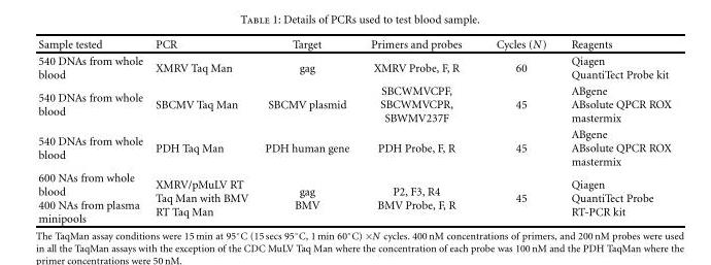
<table><thead><tr><td>Sample tested</td><td>PCR</td><td>Target</td><td>Primers and probes</td><td>Cycles (N)</td><td>Reagents</td></tr></thead><tbody><tr><td>540 DNAs from whole blood</td><td>XMRV Taq Man</td><td>gag</td><td>XMRV Probe, F, R</td><td>60</td><td>Qiagen QuantiTect Probe kit</td></tr><tr><td>540 DNAs from whole blood</td><td>SBCMV Taq Man</td><td>SBCMV plasmid</td><td>SBCWMVCPF, SBCWMVCPR, SBWMV237F</td><td>45</td><td>ABgene ABsolute QPCR ROX mastermix</td></tr><tr><td>540 DNAs from whole blood</td><td>PDH Taq Man</td><td>PDH human gene</td><td>PDH Probe, F, R</td><td>45</td><td>ABgene ABsolute QPCR ROX mastermix</td></tr><tr><td>600 NAs from whole blood 400 NAs from plasma minipools</td><td>XMRV/pMuLV RT Taq Man with BMV RT Taq Man</td><td>gag BMV</td><td>P2, F3, R4 BMV Probe, F, R</td><td>45</td><td>Qiagen QuantiTect Probe RT-PCR kit</td></tr></tbody></table>